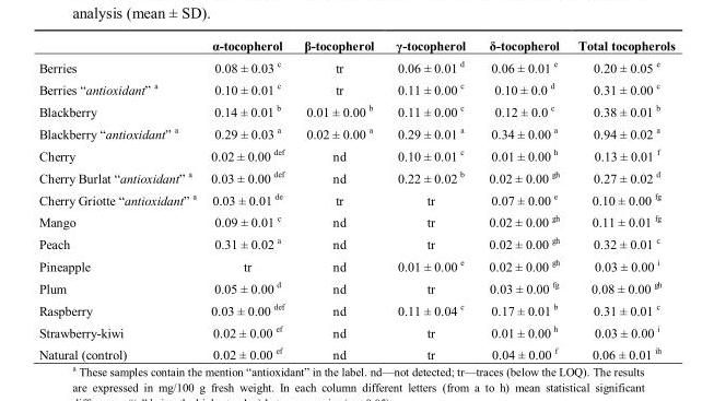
<table><thead><tr><td></td><td>α-tocopherol</td><td>β-tocopherol</td><td>γ-tocopherol</td><td>δ-tocopherol</td><td>Total tocopherols</td></tr></thead><tbody><tr><td>Berries</td><td>0.08 ± 0.03 <sup>c</sup></td><td>tr</td><td>0.06 ± 0.01 <sup>d</sup></td><td>0.06 ± 0.01 <sup>e</sup></td><td>0.20 ± 0.05 <sup>e</sup></td></tr><tr><td>Berries ―antioxidant‖ a</td><td>0.10 ± 0.01 <sup>c</sup></td><td>tr</td><td>0.11 ± 0.00 <sup>c</sup></td><td>0.10 ± 0.0 <sup>d</sup></td><td>0.31 ± 0.00 <sup>c</sup></td></tr><tr><td>Blackberry</td><td>0.14 ± 0.01 <sup>b</sup></td><td>0.01 ± 0.00 <sup>b</sup></td><td>0.11 ± 0.00 <sup>c</sup></td><td>0.12 ± 0.0 <sup>c</sup></td><td>0.38 ± 0.01 <sup>b</sup></td></tr><tr><td>Blackberry ―antioxidant‖ a</td><td>0.29 ± 0.03 <sup>a</sup></td><td>0.02 ± 0.00 <sup>a</sup></td><td>0.29 ± 0.01 <sup>a</sup></td><td>0.34 ± 0.00 <sup>a</sup></td><td>0.94 ± 0.02 <sup>a</sup></td></tr><tr><td>Cherry</td><td>0.02 ± 0.00 <sup>def</sup></td><td>nd</td><td>0.10 ± 0.01 <sup>c</sup></td><td>0.01 ± 0.00 <sup>h</sup></td><td>0.13 ± 0.01 <sup>f</sup></td></tr><tr><td>Cherry Burlat ―antioxidant‖ a</td><td>0.03 ± 0.00 <sup>def</sup></td><td>nd</td><td>0.22 ± 0.02 <sup>b</sup></td><td>0.02 ± 0.00 <sup>gh</sup></td><td>0.27 ± 0.02 <sup>d</sup></td></tr><tr><td>Cherry Griotte ―antioxidant‖ a</td><td>0.03 ± 0.01 <sup>de</sup></td><td>tr</td><td>tr</td><td>0.07 ± 0.00 <sup>e</sup></td><td>0.10 ± 0.00 <sup>fg</sup></td></tr><tr><td>Mango</td><td>0.09 ± 0.01 <sup>c</sup></td><td>nd</td><td>tr</td><td>0.02 ± 0.00 <sup>gh</sup></td><td>0.11 ± 0.01 <sup>fg</sup></td></tr><tr><td>Peach</td><td>0.31 ± 0.02 <sup>a</sup></td><td>nd</td><td>tr</td><td>0.02 ± 0.00 <sup>gh</sup></td><td>0.32 ± 0.01 <sup>c</sup></td></tr><tr><td>Pineapple</td><td>tr</td><td>nd</td><td>0.01 ± 0.00 <sup>e</sup></td><td>0.02 ± 0.00 <sup>gh</sup></td><td>0.03 ± 0.00 <sup>i</sup></td></tr><tr><td>Plum</td><td>0.05 ± 0.00 <sup>d</sup></td><td>nd</td><td>tr</td><td>0.03 ± 0.00 <sup>fg</sup></td><td>0.08 ± 0.00 <sup>gh</sup></td></tr><tr><td>Raspberry</td><td>0.03 ± 0.00 <sup>def</sup></td><td>nd</td><td>0.11 ± 0.04 <sup>c</sup></td><td>0.17 ± 0.01 <sup>b</sup></td><td>0.31 ± 0.01 <sup>c</sup></td></tr><tr><td>Strawberry-kiwi</td><td>0.02 ± 0.00 <sup>ef</sup></td><td>nd</td><td>tr</td><td>0.01 ± 0.00 <sup>h</sup></td><td>0.03 ± 0.00 <sup>i</sup></td></tr><tr><td>Natural (control)</td><td>0.02 ± 0.00 <sup>ef</sup></td><td>nd</td><td>tr</td><td>0.04 ± 0.00 <sup>f</sup></td><td>0.06 ± 0.01 <sup>ih</sup></td></tr></tbody></table>